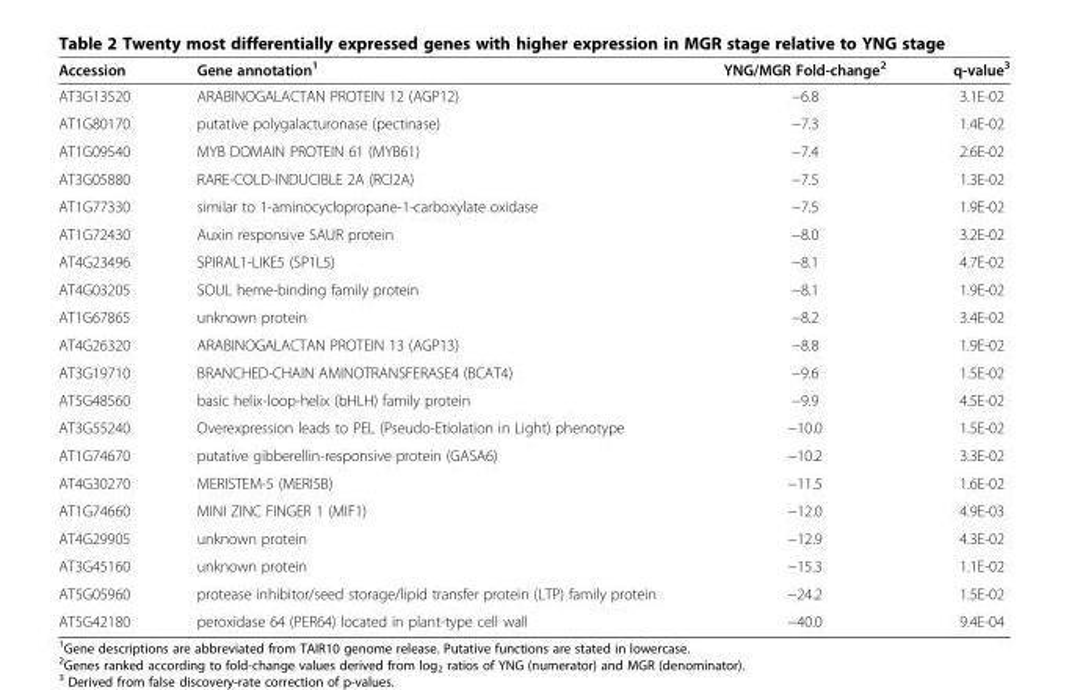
<table><thead><tr><td>Accession</td><td>Gene annotation<sup>1</sup></td><td>YNG/MGR Fold-change<sup>2</sup></td><td>q-value<sup>3</sup></td></tr></thead><tbody><tr><td>AT3G13520</td><td>ARABINOGALACTAN PROTEIN 12 (AGP12)</td><td>−6.8</td><td>3.1E-02</td></tr><tr><td>AT1G80170</td><td>putative polygalacturonase (pectinase)</td><td>−7.3</td><td>1.4E-02</td></tr><tr><td>AT1G09540</td><td>MYB DOMAIN PROTEIN 61 (MYB61)</td><td>−7.4</td><td>2.6E-02</td></tr><tr><td>AT3G05880</td><td>RARE-COLD-INDUCIBLE 2A (RCI2A)</td><td>−7.5</td><td>1.3E-02</td></tr><tr><td>AT1G77330</td><td>similar to 1-aminocyclopropane-1-carboxylate oxidase</td><td>−7.5</td><td>1.9E-02</td></tr><tr><td>AT1G72430</td><td>Auxin responsive SAUR protein</td><td>−8.0</td><td>3.2E-02</td></tr><tr><td>AT4G23496</td><td>SPIRAL1-LIKE5 (SP1L5)</td><td>−8.1</td><td>4.7E-02</td></tr><tr><td>AT4G03205</td><td>SOUL heme-binding family protein</td><td>−8.1</td><td>1.9E-02</td></tr><tr><td>AT1G67865</td><td>unknown protein</td><td>−8.2</td><td>3.4E-02</td></tr><tr><td>AT4G26320</td><td>ARABINOGALACTAN PROTEIN 13 (AGP13)</td><td>−8.8</td><td>1.9E-02</td></tr><tr><td>AT3G19710</td><td>BRANCHED-CHAIN AMINOTRANSFERASE4 (BCAT4)</td><td>−9.6</td><td>1.5E-02</td></tr><tr><td>AT5G48560</td><td>basic helix-loop-helix (bHLH) family protein</td><td>−9.9</td><td>4.5E-02</td></tr><tr><td>AT3G55240</td><td>Overexpression leads to PEL (Pseudo-Etiolation in Light) phenotype</td><td>−10.0</td><td>1.5E-02</td></tr><tr><td>AT1G74670</td><td>putative gibberellin-responsive protein (GASA6)</td><td>−10.2</td><td>3.3E-02</td></tr><tr><td>AT4G30270</td><td>MERISTEM-5 (MERI5B)</td><td>−11.5</td><td>1.6E-02</td></tr><tr><td>AT1G74660</td><td>MINI ZINC FINGER 1 (MIF1)</td><td>−12.0</td><td>4.9E-03</td></tr><tr><td>AT4G29905</td><td>unknown protein</td><td>−12.9</td><td>4.3E-02</td></tr><tr><td>AT3G45160</td><td>unknown protein</td><td>−15.3</td><td>1.1E-02</td></tr><tr><td>AT5G05960</td><td>protease inhibitor/seed storage/lipid transfer protein (LTP) family protein</td><td>−24.2</td><td>1.5E-02</td></tr><tr><td>AT5G42180</td><td>peroxidase 64 (PER64) located in plant-type cell wall</td><td>−40.0</td><td>9.4E-04</td></tr></tbody></table>